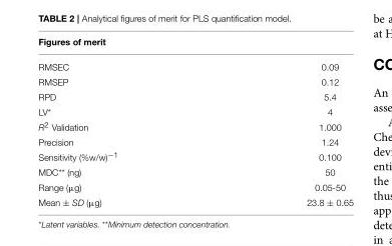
<table><thead><tr><td>Figures of merit</td><td></td></tr></thead><tbody><tr><td>RMSEC</td><td>0.09</td></tr><tr><td>RMSEP</td><td>0.12</td></tr><tr><td>RPD</td><td>5.4</td></tr><tr><td>LV*</td><td>4</td></tr><tr><td>R<sup>2</sup> Validation</td><td>1.000</td></tr><tr><td>Precision</td><td>1.24</td></tr><tr><td>Sensitivity (%w/w)<sup>−1</sup></td><td>0.100</td></tr><tr><td>MDC** (ng)</td><td>50</td></tr><tr><td>Range (µg)</td><td>0.05-50</td></tr><tr><td>Mean ± SD (µg)</td><td>23.8 ± 0.65</td></tr></tbody></table>